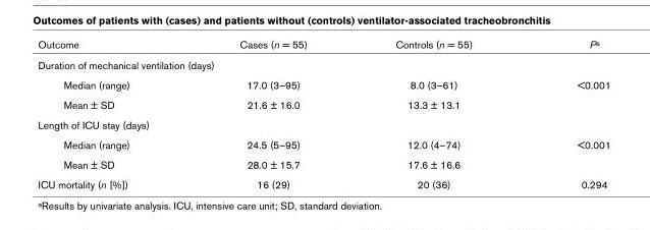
<table><thead><tr><td>Outcome</td><td>Cases (n = 55)</td><td>Controls (n = 55)</td><td>Pa</td></tr></thead><tbody><tr><td colspan="4">Duration of mechanical ventilation (days)</td></tr><tr><td>Median (range)</td><td>17.0 (3–95)</td><td>8.0 (3–61)</td><td>&lt;0.001</td></tr><tr><td>Mean ± SD</td><td>21.6 ± 16.0</td><td>13.3 ± 13.1</td><td></td></tr><tr><td colspan="4">Length of ICU stay (days)</td></tr><tr><td>Median (range)</td><td>24.5 (5–95)</td><td>12.0 (4–74)</td><td>&lt;0.001</td></tr><tr><td>Mean ± SD</td><td>28.0 ± 15.7</td><td>17.6 ± 16.6</td><td></td></tr><tr><td>ICU mortality (n [%])</td><td>16 (29)</td><td>20 (36)</td><td>0.294</td></tr></tbody></table>